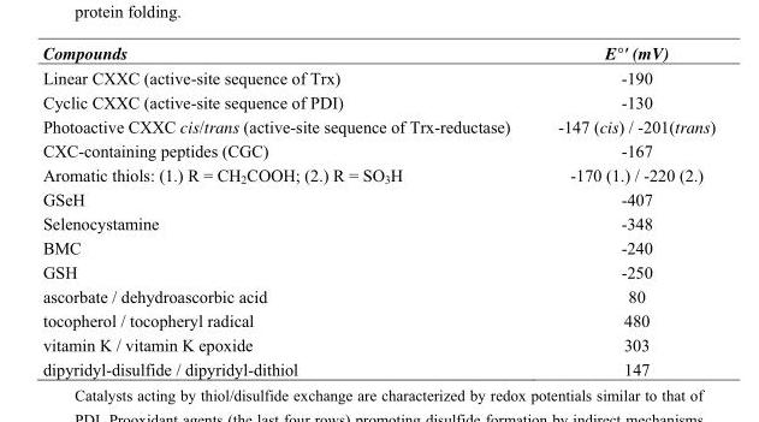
<table><thead><tr><td>Compounds</td><td>E°&#x27; (mV)</td></tr></thead><tbody><tr><td>Linear CXXC (active-site sequence of Trx)</td><td>-190</td></tr><tr><td>Cyclic CXXC (active-site sequence of PDI)</td><td>-130</td></tr><tr><td>Photoactive CXXC cis/trans (active-site sequence of Trx-reductase)</td><td>-147 (cis) / -201(trans)</td></tr><tr><td>CXC-containing peptides (CGC)</td><td>-167</td></tr><tr><td>Aromatic thiols: (1.) R = CH<sub>2</sub>COOH; (2.) R = SO<sub>3</sub>H</td><td>-170 (1.) / -220 (2.)</td></tr><tr><td>GSeH</td><td>-407</td></tr><tr><td>Selenocystamine</td><td>-348</td></tr><tr><td>BMC</td><td>-240</td></tr><tr><td>GSH</td><td>-250</td></tr><tr><td>ascorbate / dehydroascorbic acid</td><td>80</td></tr><tr><td>tocopherol / tocopheryl radical</td><td>480</td></tr><tr><td>vitamin K / vitamin K epoxide</td><td>303</td></tr><tr><td>dipyridyl-disulfide / dipyridyl-dithiol</td><td>147</td></tr></tbody></table>